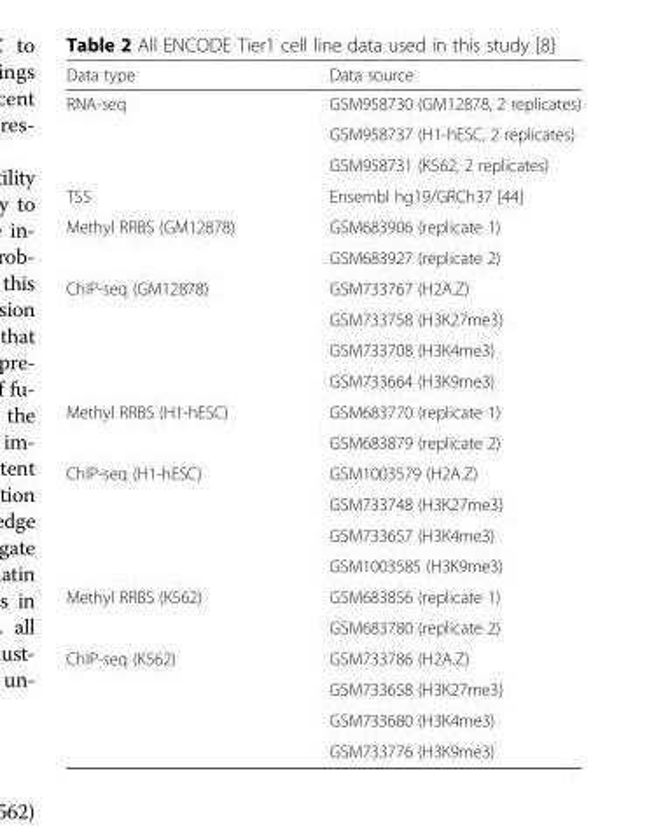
<table><thead><tr><td>Data type</td><td>Data source</td></tr></thead><tbody><tr><td rowspan="3">RNA-seq</td><td>GSM958730 (GM12878, 2 replicates)</td></tr><tr><td>GSM958737 (H1-hESC, 2 replicates)</td></tr><tr><td>GSM958731 (K562, 2 replicates)</td></tr><tr><td>TSS</td><td>Ensembl hg19/GRCh37 [44]</td></tr><tr><td rowspan="2">Methyl RRBS (GM12878)</td><td>GSM683906 (replicate 1)</td></tr><tr><td>GSM683927 (replicate 2)</td></tr><tr><td rowspan="4">ChIP-seq (GM12878)</td><td>GSM733767 (H2A.Z)</td></tr><tr><td>GSM733758 (H3K27me3)</td></tr><tr><td>GSM733708 (H3K4me3)</td></tr><tr><td>GSM733664 (H3K9me3)</td></tr><tr><td rowspan="2">Methyl RRBS (H1-hESC)</td><td>GSM683770 (replicate 1)</td></tr><tr><td>GSM683879 (replicate 2)</td></tr><tr><td rowspan="4">ChIP-seq (H1-hESC)</td><td>GSM1003579 (H2A.Z)</td></tr><tr><td>GSM733748 (H3K27me3)</td></tr><tr><td>GSM733657 (H3K4me3)</td></tr><tr><td>GSM1003585 (H3K9me3)</td></tr><tr><td rowspan="2">Methyl RRBS (K562)</td><td>GSM683856 (replicate 1)</td></tr><tr><td>GSM683780 (replicate 2)</td></tr><tr><td rowspan="4">ChIP-seq (K562)</td><td>GSM733786 (H2A.Z)</td></tr><tr><td>GSM733658 (H3K27me3)</td></tr><tr><td>GSM733680 (H3K4me3)</td></tr><tr><td>GSM733776 (H3K9me3)</td></tr></tbody></table>